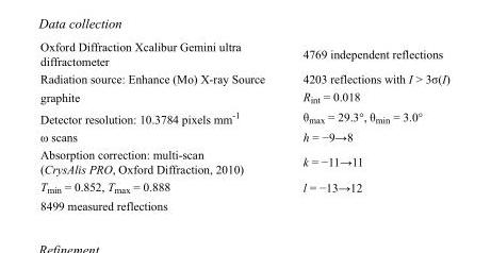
<table><tbody><tr><td>Oxford Diffraction Xcalibur Gemini ultra diffractometer</td><td>4769 independent reflections</td></tr><tr><td>Radiation source: Enhance (Mo) X-ray Source</td><td>4203 reflections with I &gt; 3σ(I)</td></tr><tr><td>graphite</td><td>R<sub>int</sub> = 0.018</td></tr><tr><td>Detector resolution: 10.3784 pixels mm<sup>-1</sup></td><td>θ<sub>max</sub> = 29.3°, θ<sub>min</sub> = 3.0°</td></tr><tr><td>ω scans</td><td>h = −9→8</td></tr><tr><td>Absorption correction: multi-scan (CrysAlis PRO, Oxford Diffraction, 2010)</td><td>k = −11→11</td></tr><tr><td>T<sub>min</sub> = 0.852, T<sub>max</sub> = 0.888</td><td>l = −13→12</td></tr><tr><td>8499 measured reflections</td><td></td></tr></tbody></table>